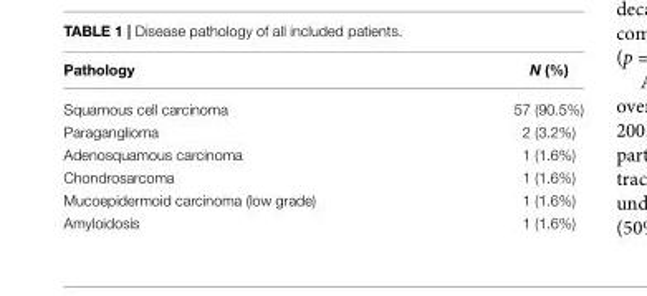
<table><thead><tr><td>Pathology</td><td>N (%)</td></tr></thead><tbody><tr><td>Squamous cell carcinoma</td><td>57 (90.5%)</td></tr><tr><td>Paraganglioma</td><td>2 (3.2%)</td></tr><tr><td>Adenosquamous carcinoma</td><td>1 (1.6%)</td></tr><tr><td>Chondrosarcoma</td><td>1 (1.6%)</td></tr><tr><td>Mucoepidermoid carcinoma (low grade)</td><td>1 (1.6%)</td></tr><tr><td>Amyloidosis</td><td>1 (1.6%)</td></tr></tbody></table>